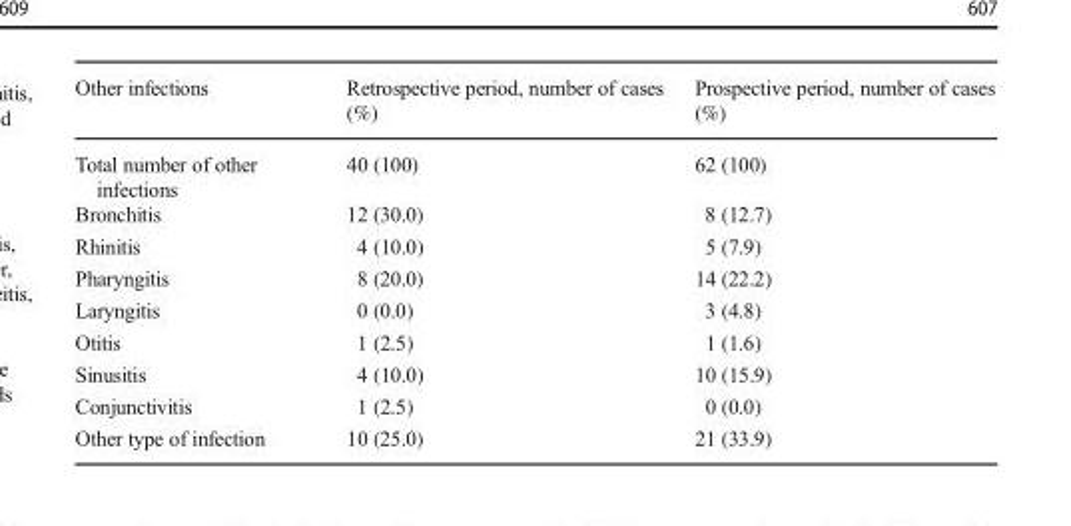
<table><thead><tr><td>Other infections</td><td>Retrospective period, number of cases (%)</td><td>Prospective period, number of cases (%)</td></tr></thead><tbody><tr><td>Total number of other infections</td><td>40 (100)</td><td>62 (100)</td></tr><tr><td>Bronchitis</td><td>12 (30.0)</td><td>8 (12.7)</td></tr><tr><td>Rhinitis</td><td>4 (10.0)</td><td>5 (7.9)</td></tr><tr><td>Pharyngitis</td><td>8 (20.0)</td><td>14 (22.2)</td></tr><tr><td>Laryngitis</td><td>0 (0.0)</td><td>3 (4.8)</td></tr><tr><td>Otitis</td><td>1 (2.5)</td><td>1 (1.6)</td></tr><tr><td>Sinusitis</td><td>4 (10.0)</td><td>10 (15.9)</td></tr><tr><td>Conjunctivitis</td><td>1 (2.5)</td><td>0 (0.0)</td></tr><tr><td>Other type of infection</td><td>10 (25.0)</td><td>21 (33.9)</td></tr></tbody></table>